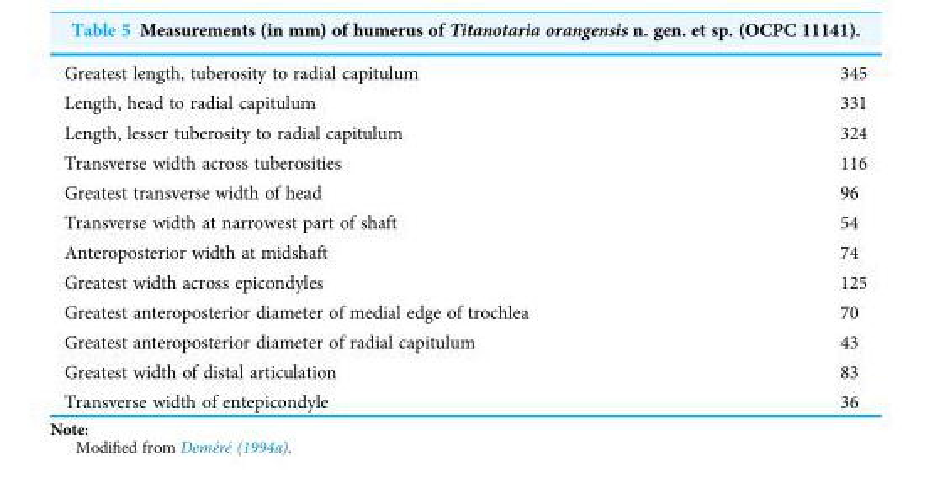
<table><tbody><tr><td>Greatest length, tuberosity to radial capitulum</td><td>345</td></tr><tr><td>Length, head to radial capitulum</td><td>331</td></tr><tr><td>Length, lesser tuberosity to radial capitulum</td><td>324</td></tr><tr><td>Transverse width across tuberosities</td><td>116</td></tr><tr><td>Greatest transverse width of head</td><td>96</td></tr><tr><td>Transverse width at narrowest part of shaft</td><td>54</td></tr><tr><td>Anteroposterior width at midshaft</td><td>74</td></tr><tr><td>Greatest width across epicondyles</td><td>125</td></tr><tr><td>Greatest anteroposterior diameter of medial edge of trochlea</td><td>70</td></tr><tr><td>Greatest anteroposterior diameter of radial capitulum</td><td>43</td></tr><tr><td>Greatest width of distal articulation</td><td>83</td></tr><tr><td>Transverse width of entepicondyle</td><td>36</td></tr></tbody></table>